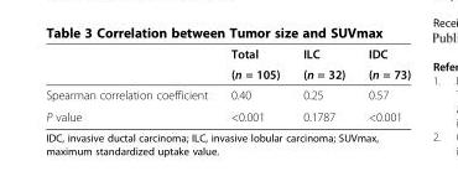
<table><thead><tr><td rowspan="2"></td><td rowspan="2">Total (n = 105)</td><td rowspan="2">ILC (n = 32)</td><td rowspan="2">IDC (n = 73)</td></tr><tr></tr></thead><tbody><tr><td>Spearman correlation coefficient</td><td>0.40</td><td>0.25</td><td>0.57</td></tr><tr><td>P value</td><td>&lt;0.001</td><td>0.1787</td><td>&lt;0.001</td></tr></tbody></table>